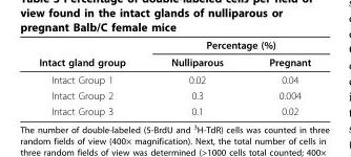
<table><thead><tr><td rowspan="2">Intact gland group</td><td colspan="2">Percentage (%)</td></tr><tr><td>Nulliparous</td><td>Pregnant</td></tr></thead><tbody><tr><td>Intact Group 1</td><td>0.02</td><td>0.04</td></tr><tr><td>Intact Group 2</td><td>0.3</td><td>0.004</td></tr><tr><td>Intact Group 3</td><td>0.1</td><td>0.02</td></tr></tbody></table>